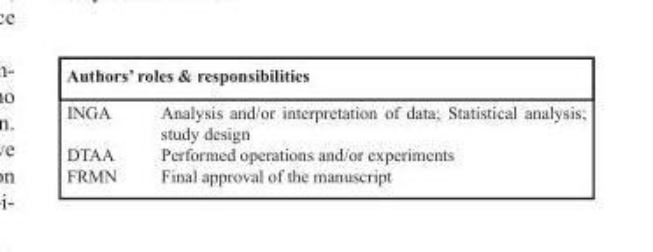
<table><thead><tr><td colspan="2">Authors’ roles &amp; responsibilities</td></tr><tr><td>INGA</td><td>Analysis and/or interpretation of data; Statistical analysis; study design</td></tr></thead><tbody><tr><td>DTAA</td><td>Performed operations and/or experiments</td></tr><tr><td>FRMN</td><td>Final approval of the manuscript</td></tr></tbody></table>